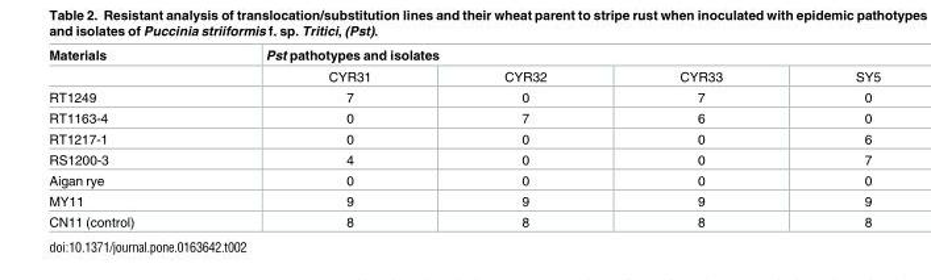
<table><thead><tr><td rowspan="2">Materials</td><td colspan="4">Pst pathotypes and isolates</td></tr><tr><td>CYR31</td><td>CYR32</td><td>CYR33</td><td>SY5</td></tr></thead><tbody><tr><td>RT1249</td><td>7</td><td>0</td><td>7</td><td>0</td></tr><tr><td>RT1163-4</td><td>0</td><td>7</td><td>6</td><td>0</td></tr><tr><td>RT1217-1</td><td>0</td><td>0</td><td>0</td><td>6</td></tr><tr><td>RS1200-3</td><td>4</td><td>0</td><td>0</td><td>7</td></tr><tr><td>Aigan rye</td><td>0</td><td>0</td><td>0</td><td>0</td></tr><tr><td>MY11</td><td>9</td><td>9</td><td>9</td><td>9</td></tr><tr><td>CN11 (control)</td><td>8</td><td>8</td><td>8</td><td>8</td></tr></tbody></table>